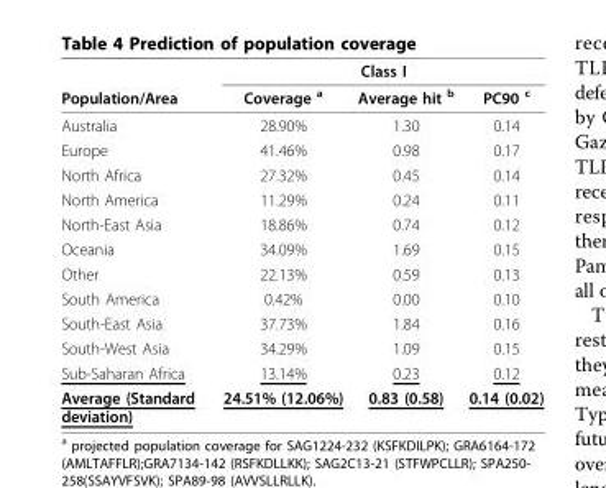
<table><thead><tr><td rowspan="2">Population/Area</td><td colspan="3">Class I</td></tr><tr><td>Coverage <sup>a</sup></td><td>Average hit <sup>b</sup></td><td>PC90 <sup>c</sup></td></tr></thead><tbody><tr><td>Australia</td><td>28.90%</td><td>1.30</td><td>0.14</td></tr><tr><td>Europe</td><td>41.46%</td><td>0.98</td><td>0.17</td></tr><tr><td>North Africa</td><td>27.32%</td><td>0.45</td><td>0.14</td></tr><tr><td>North America</td><td>11.29%</td><td>0.24</td><td>0.11</td></tr><tr><td>North-East Asia</td><td>18.86%</td><td>0.74</td><td>0.12</td></tr><tr><td>Oceania</td><td>34.09%</td><td>1.69</td><td>0.15</td></tr><tr><td>Other</td><td>22.13%</td><td>0.59</td><td>0.13</td></tr><tr><td>South America</td><td>0.42%</td><td>0.00</td><td>0.10</td></tr><tr><td>South-East Asia</td><td>37.73%</td><td>1.84</td><td>0.16</td></tr><tr><td>South-West Asia</td><td>34.29%</td><td>1.09</td><td>0.15</td></tr><tr><td>Sub-Saharan Africa</td><td>13.14%</td><td>0.23</td><td>0.12</td></tr><tr><td>Average (Standard deviation)</td><td>24.51% (12.06%)</td><td>0.83 (0.58)</td><td>0.14 (0.02)</td></tr></tbody></table>